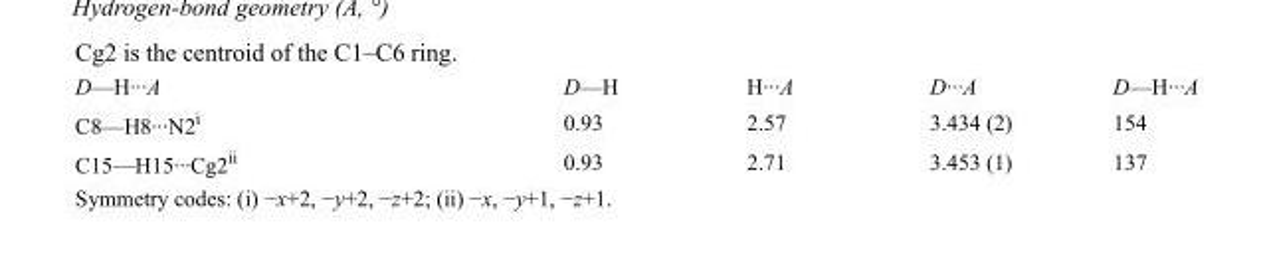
<table><tbody><tr><td>D—H···A</td><td>D—H</td><td>H···A</td><td>D···A</td><td>D—H···A</td></tr><tr><td>C8—H8···N2<sup>i</sup></td><td>0.93</td><td>2.57</td><td>3.434 (2)</td><td>154</td></tr><tr><td>C15—H15···Cg2<sup>ii</sup></td><td>0.93</td><td>2.71</td><td>3.453 (1)</td><td>137</td></tr></tbody></table>